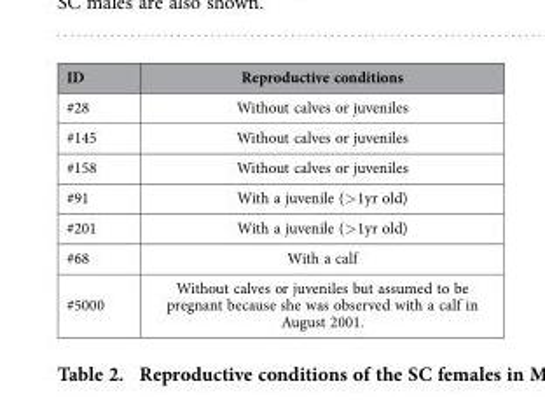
<table><thead><tr><td>ID</td><td>Reproductive conditions</td></tr></thead><tbody><tr><td>#28</td><td>Without calves or juveniles</td></tr><tr><td>#145</td><td>Without calves or juveniles</td></tr><tr><td>#158</td><td>Without calves or juveniles</td></tr><tr><td>#91</td><td>With a juvenile (&gt; 1yr old)</td></tr><tr><td>#201</td><td>With a juvenile (&gt; 1yr old)</td></tr><tr><td>#68</td><td>With a calf</td></tr><tr><td>#5000</td><td>Without calves or juveniles but assumed to be pregnant because she was observed with a calf in August 2001.</td></tr></tbody></table>